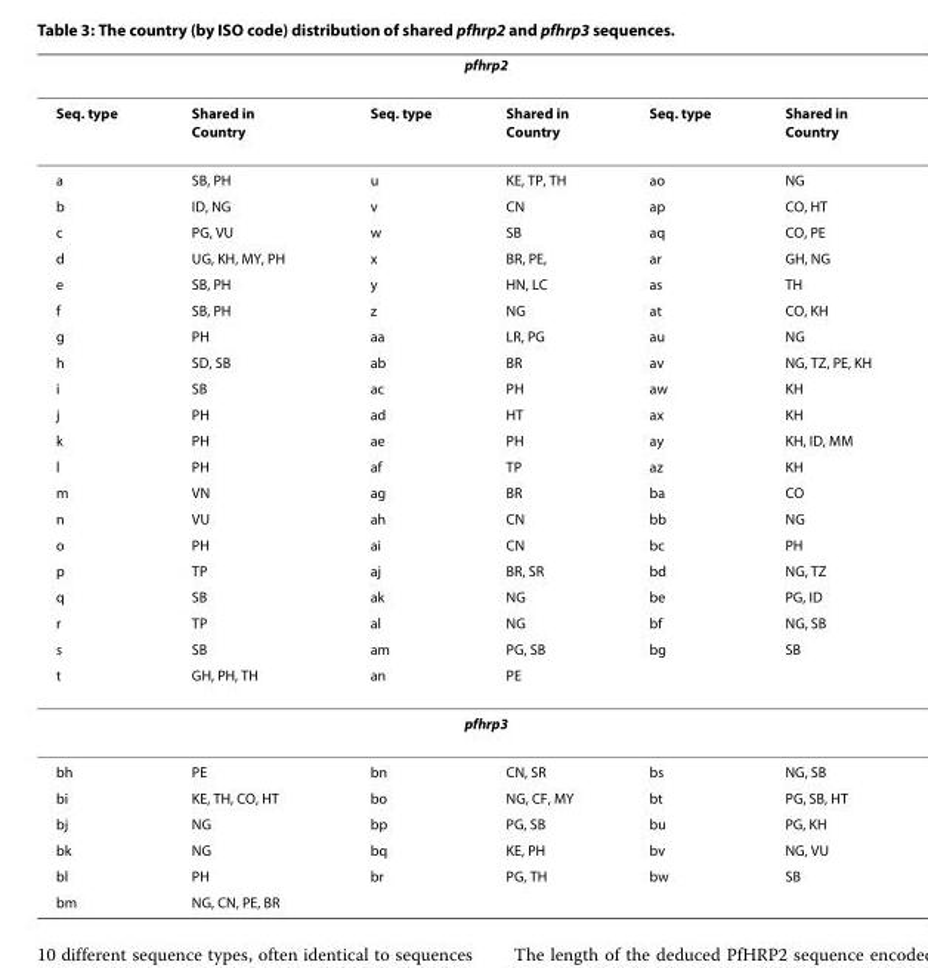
<table><thead><tr><td colspan="6">pfhrp2</td></tr><tr><td>Seq. type</td><td>Shared in Country</td><td>Seq. type</td><td>Shared in Country</td><td>Seq. type</td><td>Shared in Country</td></tr></thead><tbody><tr><td>a</td><td>SB, PH</td><td>u</td><td>KE, TP, TH</td><td>ao</td><td>NG</td></tr><tr><td>b</td><td>ID, NG</td><td>v</td><td>CN</td><td>ap</td><td>CO, HT</td></tr><tr><td>c</td><td>PG, VU</td><td>w</td><td>SB</td><td>aq</td><td>CO, PE</td></tr><tr><td>d</td><td>UG, KH, MY, PH</td><td>x</td><td>BR, PE,</td><td>ar</td><td>GH, NG</td></tr><tr><td>e</td><td>SB, PH</td><td>y</td><td>HN, LC</td><td>as</td><td>TH</td></tr><tr><td>f</td><td>SB, PH</td><td>z</td><td>NG</td><td>at</td><td>CO, KH</td></tr><tr><td>g</td><td>PH</td><td>aa</td><td>LR, PG</td><td>au</td><td>NG</td></tr><tr><td>h</td><td>SD, SB</td><td>ab</td><td>BR</td><td>av</td><td>NG, TZ, PE, KH</td></tr><tr><td>i</td><td>SB</td><td>ac</td><td>PH</td><td>aw</td><td>KH</td></tr><tr><td>j</td><td>PH</td><td>ad</td><td>HT</td><td>ax</td><td>KH</td></tr><tr><td>k</td><td>PH</td><td>ae</td><td>PH</td><td>ay</td><td>KH, ID, MM</td></tr><tr><td>l</td><td>PH</td><td>af</td><td>TP</td><td>az</td><td>KH</td></tr><tr><td>m</td><td>VN</td><td>ag</td><td>BR</td><td>ba</td><td>CO</td></tr><tr><td>n</td><td>VU</td><td>ah</td><td>CN</td><td>bb</td><td>NG</td></tr><tr><td>o</td><td>PH</td><td>ai</td><td>CN</td><td>bc</td><td>PH</td></tr><tr><td>p</td><td>TP</td><td>aj</td><td>BR, SR</td><td>bd</td><td>NG, TZ</td></tr><tr><td>q</td><td>SB</td><td>ak</td><td>NG</td><td>be</td><td>PG, ID</td></tr><tr><td>r</td><td>TP</td><td>al</td><td>NG</td><td>bf</td><td>NG, SB</td></tr><tr><td>s</td><td>SB</td><td>am</td><td>PG, SB</td><td>bg</td><td>SB</td></tr><tr><td>t</td><td>GH, PH, TH</td><td>an</td><td>PE</td><td></td><td></td></tr><tr><td colspan="6">pfhrp3</td></tr><tr><td>bh</td><td>PE</td><td>bn</td><td>CN, SR</td><td>bs</td><td>NG, SB</td></tr><tr><td>bi</td><td>KE, TH, CO, HT</td><td>bo</td><td>NG, CF, MY</td><td>bt</td><td>PG, SB, HT</td></tr><tr><td>bj</td><td>NG</td><td>bp</td><td>PG, SB</td><td>bu</td><td>PG, KH</td></tr><tr><td>bk</td><td>NG</td><td>bq</td><td>KE, PH</td><td>bv</td><td>NG, VU</td></tr><tr><td>bl</td><td>PH</td><td>br</td><td>PG, TH</td><td>bw</td><td>SB</td></tr><tr><td>bm</td><td>NG, CN, PE, BR</td><td></td><td></td><td></td><td></td></tr></tbody></table>